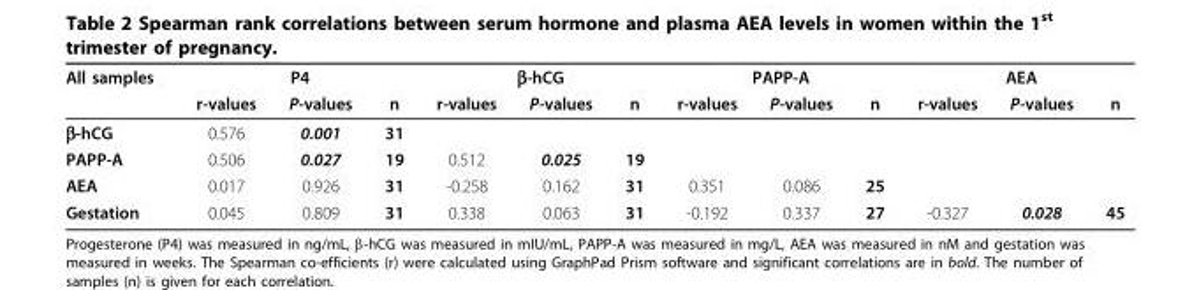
<table><thead><tr><td rowspan="2">All samples</td><td colspan="3">P4</td><td colspan="3">β-hCG</td><td colspan="3">PAPP-A</td><td colspan="3">AEA</td></tr><tr><td>r-values</td><td>P-values</td><td>n</td><td>r-values</td><td>P-values</td><td>n</td><td>r-values</td><td>P-values</td><td>n</td><td>r-values</td><td>P-values</td><td>n</td></tr></thead><tbody><tr><td>β-hCG</td><td>0.576</td><td>0.001</td><td>31</td><td></td><td></td><td></td><td></td><td></td><td></td><td></td><td></td><td></td></tr><tr><td>PAPP-A</td><td>0.506</td><td>0.027</td><td>19</td><td>0.512</td><td>0.025</td><td>19</td><td></td><td></td><td></td><td></td><td></td><td></td></tr><tr><td>AEA</td><td>0.017</td><td>0.926</td><td>31</td><td>-0.258</td><td>0.162</td><td>31</td><td>0.351</td><td>0.086</td><td>25</td><td></td><td></td><td></td></tr><tr><td>Gestation</td><td>0.045</td><td>0.809</td><td>31</td><td>0.338</td><td>0.063</td><td>31</td><td>-0.192</td><td>0.337</td><td>27</td><td>-0.327</td><td>0.028</td><td>45</td></tr></tbody></table>